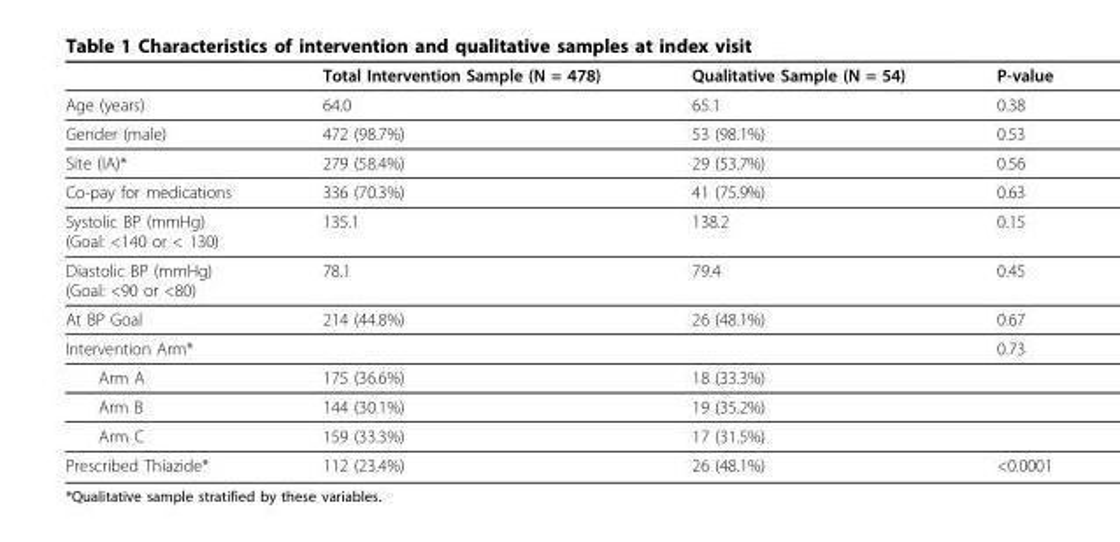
<table><thead><tr><td></td><td>Total Intervention Sample (N = 478)</td><td>Qualitative Sample (N = 54)</td><td>P-value</td></tr></thead><tbody><tr><td>Age (years)</td><td>64.0</td><td>65.1</td><td>0.38</td></tr><tr><td>Gender (male)</td><td>472 (98.7%)</td><td>53 (98.1%)</td><td>0.53</td></tr><tr><td>Site (IA)*</td><td>279 (58.4%)</td><td>29 (53.7%)</td><td>0.56</td></tr><tr><td>Co-pay for medications</td><td>336 (70.3%)</td><td>41 (75.9%)</td><td>0.63</td></tr><tr><td>Systolic BP (mmHg) (Goal: &lt;140 or &lt; 130)</td><td>135.1</td><td>138.2</td><td>0.15</td></tr><tr><td>Diastolic BP (mmHg) (Goal: &lt;90 or &lt;80)</td><td>78.1</td><td>79.4</td><td>0.45</td></tr><tr><td>At BP Goal</td><td>214 (44.8%)</td><td>26 (48.1%)</td><td>0.67</td></tr><tr><td>Intervention Arm*</td><td></td><td></td><td>0.73</td></tr><tr><td>Arm A</td><td>175 (36.6%)</td><td>18 (33.3%)</td><td></td></tr><tr><td>Arm B</td><td>144 (30.1%)</td><td>19 (35.2%)</td><td></td></tr><tr><td>Arm C</td><td>159 (33.3%)</td><td>17 (31.5%)</td><td></td></tr><tr><td>Prescribed Thiazide*</td><td>112 (23.4%)</td><td>26 (48.1%)</td><td>&lt;0.0001</td></tr></tbody></table>